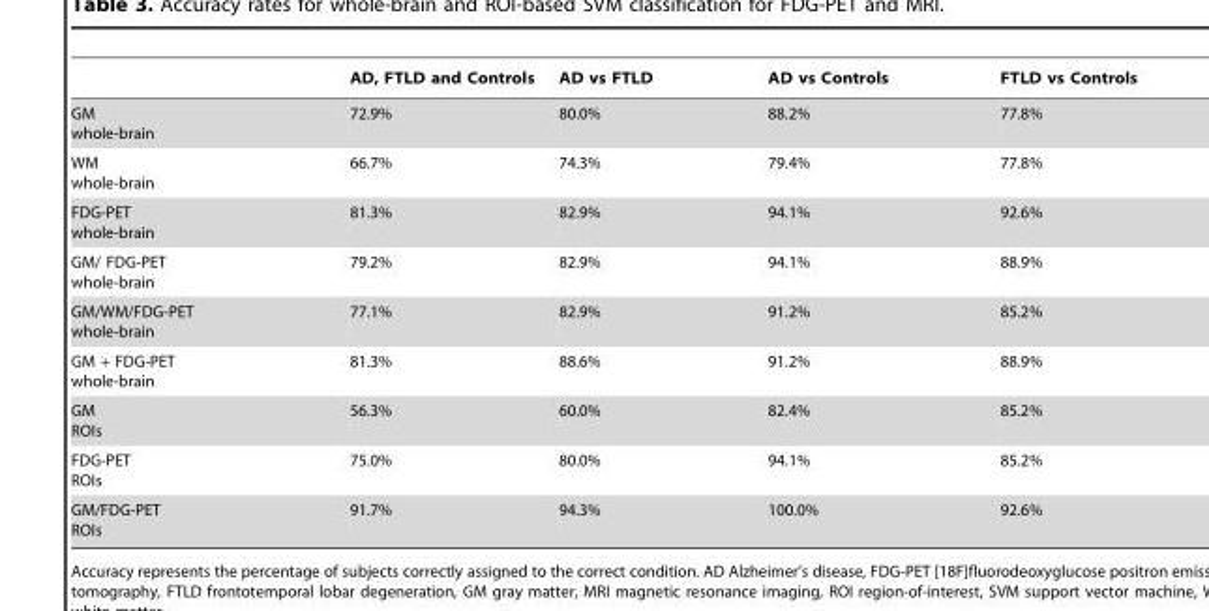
<table><thead><tr><td></td><td>AD, FTLD and Controls</td><td>AD vs FTLD</td><td>AD vs Controls</td><td>FTLD vs Controls</td></tr></thead><tbody><tr><td>GM whole-brain</td><td>72.9%</td><td>80.0%</td><td>88.2%</td><td>77.8%</td></tr><tr><td>WM whole-brain</td><td>66.7%</td><td>74.3%</td><td>79.4%</td><td>77.8%</td></tr><tr><td>FDG-PET whole-brain</td><td>81.3%</td><td>82.9%</td><td>94.1%</td><td>92.6%</td></tr><tr><td>GM/ FDG-PET whole-brain</td><td>79.2%</td><td>82.9%</td><td>94.1%</td><td>88.9%</td></tr><tr><td>GM/WM/FDG-PET whole-brain</td><td>77.1%</td><td>82.9%</td><td>91.2%</td><td>85.2%</td></tr><tr><td>GM + FDG-PET whole-brain</td><td>81.3%</td><td>88.6%</td><td>91.2%</td><td>88.9%</td></tr><tr><td>GM ROIs</td><td>56.3%</td><td>60.0%</td><td>82.4%</td><td>85.2%</td></tr><tr><td>FDG-PET ROIs</td><td>75.0%</td><td>80.0%</td><td>94.1%</td><td>85.2%</td></tr><tr><td>GM/FDG-PET ROIs</td><td>91.7%</td><td>94.3%</td><td>100.0%</td><td>92.6%</td></tr></tbody></table>